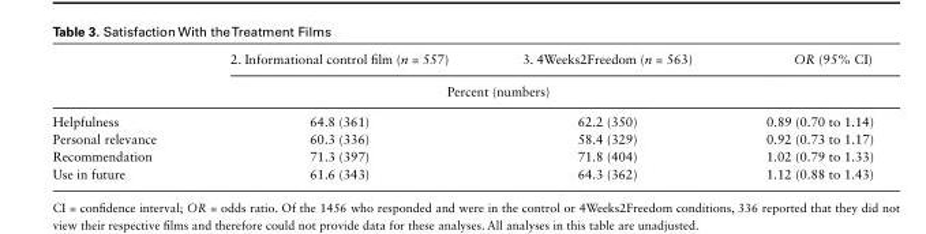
<table><thead><tr><td rowspan="2"></td><td>2. Informational control film (n = 557)</td><td>3. 4Weeks2Freedom (n = 563)</td><td rowspan="2">OR (95% CI)</td></tr><tr><td colspan="2">Percent (numbers)</td></tr></thead><tbody><tr><td>Helpfulness</td><td>64.8 (361)</td><td>62.2 (350)</td><td>0.89 (0.70 to 1.14)</td></tr><tr><td>Personal relevance</td><td>60.3 (336)</td><td>58.4 (329)</td><td>0.92 (0.73 to 1.17)</td></tr><tr><td>Recommendation</td><td>71.3 (397)</td><td>71.8 (404)</td><td>1.02 (0.79 to 1.33)</td></tr><tr><td>Use in future</td><td>61.6 (343)</td><td>64.3 (362)</td><td>1.12 (0.88 to 1.43)</td></tr></tbody></table>